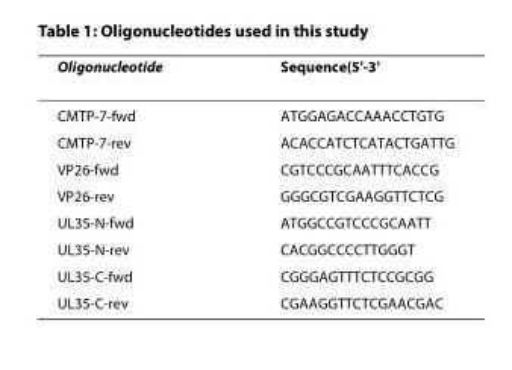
<table><thead><tr><td>Oligonucleotide</td><td>Sequence(5&#x27;-3&#x27;</td></tr></thead><tbody><tr><td>CMTP-7-fwd</td><td>ATGGAGACCAAACCTGTG</td></tr><tr><td>CMTP-7-rev</td><td>ACACCATCTCATACTGATTG</td></tr><tr><td>VP26-fwd</td><td>CGTCCCGCAATTTCACCG</td></tr><tr><td>VP26-rev</td><td>GGGCGTCGAAGGTTCTCG</td></tr><tr><td>UL35-N-fwd</td><td>ATGGCCGTCCCGCAATT</td></tr><tr><td>UL35-N-rev</td><td>CACGGCCCCTTGGGT</td></tr><tr><td>UL35-C-fwd</td><td>CGGGAGTTTCTCCGCGG</td></tr><tr><td>UL35-C-rev</td><td>CGAAGGTTCTCGAACGAC</td></tr></tbody></table>